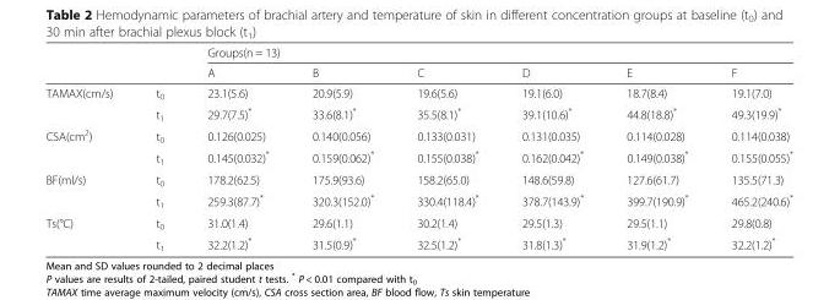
<table><thead><tr><td rowspan="2"></td><td rowspan="2"></td><td colspan="6">Groups(n = 13)</td></tr><tr><td>A</td><td>B</td><td>C</td><td>D</td><td>E</td><td>F</td></tr></thead><tbody><tr><td rowspan="2">TAMAX(cm/s)</td><td>t<sub>0</sub></td><td>23.1(5.6)</td><td>20.9(5.9)</td><td>19.6(5.6)</td><td>19.1(6.0)</td><td>18.7(8.4)</td><td>19.1(7.0)</td></tr><tr><td>t<sub>1</sub></td><td>29.7(7.5)*</td><td>33.6(8.1)*</td><td>35.5(8.1)*</td><td>39.1(10.6)*</td><td>44.8(18.8)*</td><td>49.3(19.9)*</td></tr><tr><td rowspan="2">CSA(cm<sup>2</sup>)</td><td>t<sub>0</sub></td><td>0.126(0.025)</td><td>0.140(0.056)</td><td>0.133(0.031)</td><td>0.131(0.035)</td><td>0.114(0.028)</td><td>0.114(0.038)</td></tr><tr><td>t<sub>1</sub></td><td>0.145(0.032)*</td><td>0.159(0.062)*</td><td>0.155(0.038)*</td><td>0.162(0.042)*</td><td>0.149(0.038)*</td><td>0.155(0.055)*</td></tr><tr><td rowspan="2">BF(ml/s)</td><td>t<sub>0</sub></td><td>178.2(62.5)</td><td>175.9(93.6)</td><td>158.2(65.0)</td><td>148.6(59.8)</td><td>127.6(61.7)</td><td>135.5(71.3)</td></tr><tr><td>t<sub>1</sub></td><td>259.3(87.7)*</td><td>320.3(152.0)*</td><td>330.4(118.4)*</td><td>378.7(143.9)*</td><td>399.7(190.9)*</td><td>465.2(240.6)*</td></tr><tr><td rowspan="2">Ts(°C)</td><td>t<sub>0</sub></td><td>31.0(1.4)</td><td>29.6(1.1)</td><td>30.2(1.4)</td><td>29.5(1.3)</td><td>29.5(1.1)</td><td>29.8(0.8)</td></tr><tr><td>t<sub>1</sub></td><td>32.2(1.2)*</td><td>31.5(0.9)*</td><td>32.5(1.2)*</td><td>31.8(1.3)*</td><td>31.9(1.2)*</td><td>32.2(1.2)*</td></tr></tbody></table>